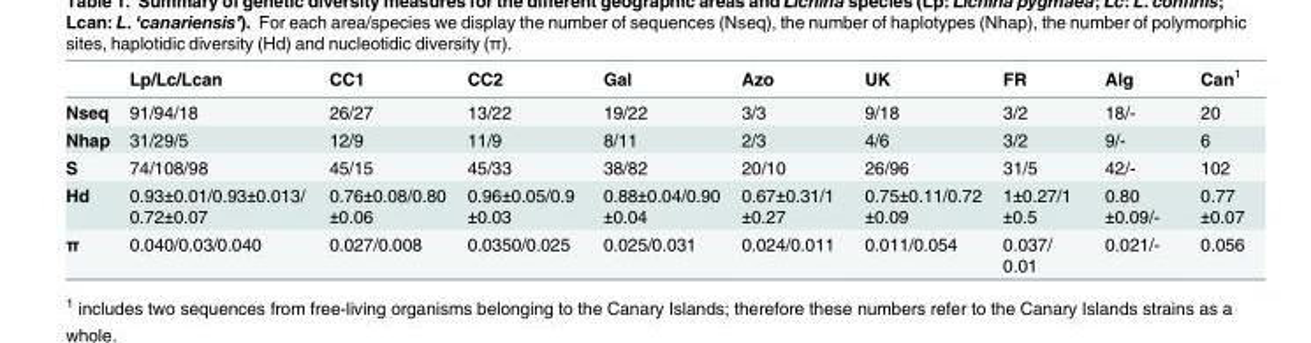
<table><thead><tr><td></td><td>Lp/Lc/Lcan</td><td>CC1</td><td>CC2</td><td>Gal</td><td>Azo</td><td>UK</td><td>FR</td><td>Alg</td><td>Can1</td></tr></thead><tbody><tr><td>Nseq</td><td>91/94/18</td><td>26/27</td><td>13/22</td><td>19/22</td><td>3/3</td><td>9/18</td><td>3/2</td><td>18/-</td><td>20</td></tr><tr><td>Nhap</td><td>31/29/5</td><td>12/9</td><td>11/9</td><td>8/11</td><td>2/3</td><td>4/6</td><td>3/2</td><td>9/-</td><td>6</td></tr><tr><td>S</td><td>74/108/98</td><td>45/15</td><td>45/33</td><td>38/82</td><td>20/10</td><td>26/96</td><td>31/5</td><td>42/-</td><td>102</td></tr><tr><td>Hd</td><td>0.93±0.01/0.93±0.013/ 0.72±0.07</td><td>0.76±0.08/0.80 ±0.06</td><td>0.96±0.05/0.9 ±0.03</td><td>0.88±0.04/0.90 ±0.04</td><td>0.67±0.31/1 ±0.27</td><td>0.75±0.11/0.72 ±0.09</td><td>1±0.27/1 ±0.5</td><td>0.80 ±0.09/-</td><td>0.77 ±0.07</td></tr><tr><td>π</td><td>0.040/0.03/0.040</td><td>0.027/0.008</td><td>0.0350/0.025</td><td>0.025/0.031</td><td>0.024/0.011</td><td>0.011/0.054</td><td>0.037/ 0.01</td><td>0.021/-</td><td>0.056</td></tr></tbody></table>